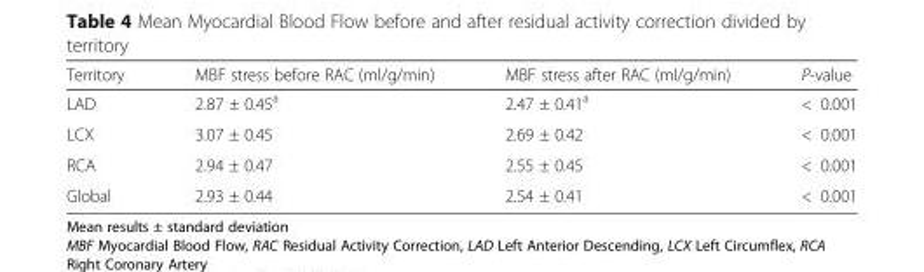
<table><thead><tr><td>Territory</td><td>MBF stress before RAC (ml/g/min)</td><td>MBF stress after RAC (ml/g/min)</td><td>P-value</td></tr></thead><tbody><tr><td>LAD</td><td>2.87 ± 0.45<sup>a</sup></td><td>2.47 ± 0.41<sup>a</sup></td><td>&lt; 0.001</td></tr><tr><td>LCX</td><td>3.07 ± 0.45</td><td>2.69 ± 0.42</td><td>&lt; 0.001</td></tr><tr><td>RCA</td><td>2.94 ± 0.47</td><td>2.55 ± 0.45</td><td>&lt; 0.001</td></tr><tr><td>Global</td><td>2.93 ± 0.44</td><td>2.54 ± 0.41</td><td>&lt; 0.001</td></tr></tbody></table>